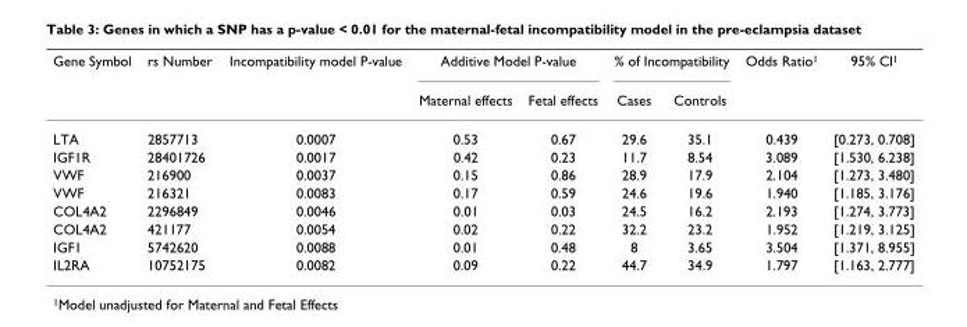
<table><thead><tr><td rowspan="2">Gene Symbol</td><td rowspan="2">rs Number</td><td rowspan="2">Incompatibility model P-value</td><td colspan="2">Additive Model P-value</td><td colspan="2">% of Incompatibility</td><td rowspan="2">Odds Ratio<sup>1</sup></td><td rowspan="2">95% CI<sup>1</sup></td></tr><tr><td>Maternal effects</td><td>Fetal effects</td><td>Cases</td><td>Controls</td></tr></thead><tbody><tr><td>LTA</td><td>2857713</td><td>0.0007</td><td>0.53</td><td>0.67</td><td>29.6</td><td>35.1</td><td>0.439</td><td>[0.273, 0.708]</td></tr><tr><td>IGF1R</td><td>28401726</td><td>0.0017</td><td>0.42</td><td>0.23</td><td>11.7</td><td>8.54</td><td>3.089</td><td>[1.530, 6.238]</td></tr><tr><td>VWF</td><td>216900</td><td>0.0037</td><td>0.15</td><td>0.86</td><td>28.9</td><td>17.9</td><td>2.104</td><td>[1.273, 3.480]</td></tr><tr><td>VWF</td><td>216321</td><td>0.0083</td><td>0.17</td><td>0.59</td><td>24.6</td><td>19.6</td><td>1.940</td><td>[1.185, 3.176]</td></tr><tr><td>COL4A2</td><td>2296849</td><td>0.0046</td><td>0.01</td><td>0.03</td><td>24.5</td><td>16.2</td><td>2.193</td><td>[1.274, 3.773]</td></tr><tr><td>COL4A2</td><td>421177</td><td>0.0054</td><td>0.02</td><td>0.22</td><td>32.2</td><td>23.2</td><td>1.952</td><td>[1.219, 3.125]</td></tr><tr><td>IGF1</td><td>5742620</td><td>0.0088</td><td>0.01</td><td>0.48</td><td>8</td><td>3.65</td><td>3.504</td><td>[1.371, 8.955]</td></tr><tr><td>IL2RA</td><td>10752175</td><td>0.0082</td><td>0.09</td><td>0.22</td><td>44.7</td><td>34.9</td><td>1.797</td><td>[1.163, 2.777]</td></tr></tbody></table>